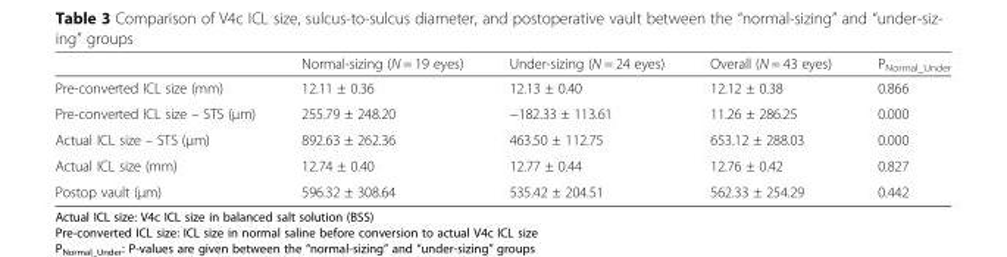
<table><thead><tr><td></td><td>Normal-sizing (N = 19 eyes)</td><td>Under-sizing (N = 24 eyes)</td><td>Overall (N = 43 eyes)</td><td>P<sub>Normal_Under</sub></td></tr></thead><tbody><tr><td>Pre-converted ICL size (mm)</td><td>12.11 ± 0.36</td><td>12.13 ± 0.40</td><td>12.12 ± 0.38</td><td>0.866</td></tr><tr><td>Pre-converted ICL size – STS (μm)</td><td>255.79 ± 248.20</td><td>−182.33 ± 113.61</td><td>11.26 ± 286.25</td><td>0.000</td></tr><tr><td>Actual ICL size – STS (μm)</td><td>892.63 ± 262.36</td><td>463.50 ± 112.75</td><td>653.12 ± 288.03</td><td>0.000</td></tr><tr><td>Actual ICL size (mm)</td><td>12.74 ± 0.40</td><td>12.77 ± 0.44</td><td>12.76 ± 0.42</td><td>0.827</td></tr><tr><td>Postop vault (μm)</td><td>596.32 ± 308.64</td><td>535.42 ± 204.51</td><td>562.33 ± 254.29</td><td>0.442</td></tr></tbody></table>